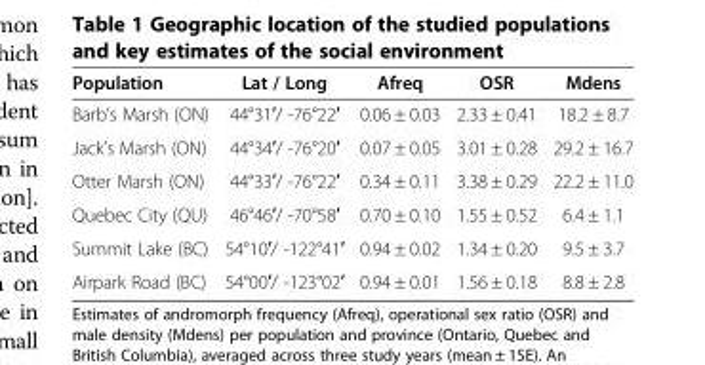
<table><thead><tr><td>Population</td><td>Lat / Long</td><td>Afreq</td><td>OSR</td><td>Mdens</td></tr></thead><tbody><tr><td>Barb’s Marsh (ON)</td><td>44°31′/ -76°22′</td><td>0.06 ± 0.03</td><td>2.33 ± 0.41</td><td>18.2 ± 8.7</td></tr><tr><td>Jack’s Marsh (ON)</td><td>44°34′/ -76°20′</td><td>0.07 ± 0.05</td><td>3.01 ± 0.28</td><td>29.2 ± 16.7</td></tr><tr><td>Otter Marsh (ON)</td><td>44°33′/ -76°22′</td><td>0.34 ± 0.11</td><td>3.38 ± 0.29</td><td>22.2 ± 11.0</td></tr><tr><td>Quebec City (QU)</td><td>46°46′/ -70°58′</td><td>0.70 ± 0.10</td><td>1.55 ± 0.52</td><td>6.4 ± 1.1</td></tr><tr><td>Summit Lake (BC)</td><td>54°10′/ -122°41′</td><td>0.94 ± 0.02</td><td>1.34 ± 0.20</td><td>9.5 ± 3.7</td></tr><tr><td>Airpark Road (BC)</td><td>54°00′/ -123°02′</td><td>0.94 ± 0.01</td><td>1.56 ± 0.18</td><td>8.8 ± 2.8</td></tr></tbody></table>